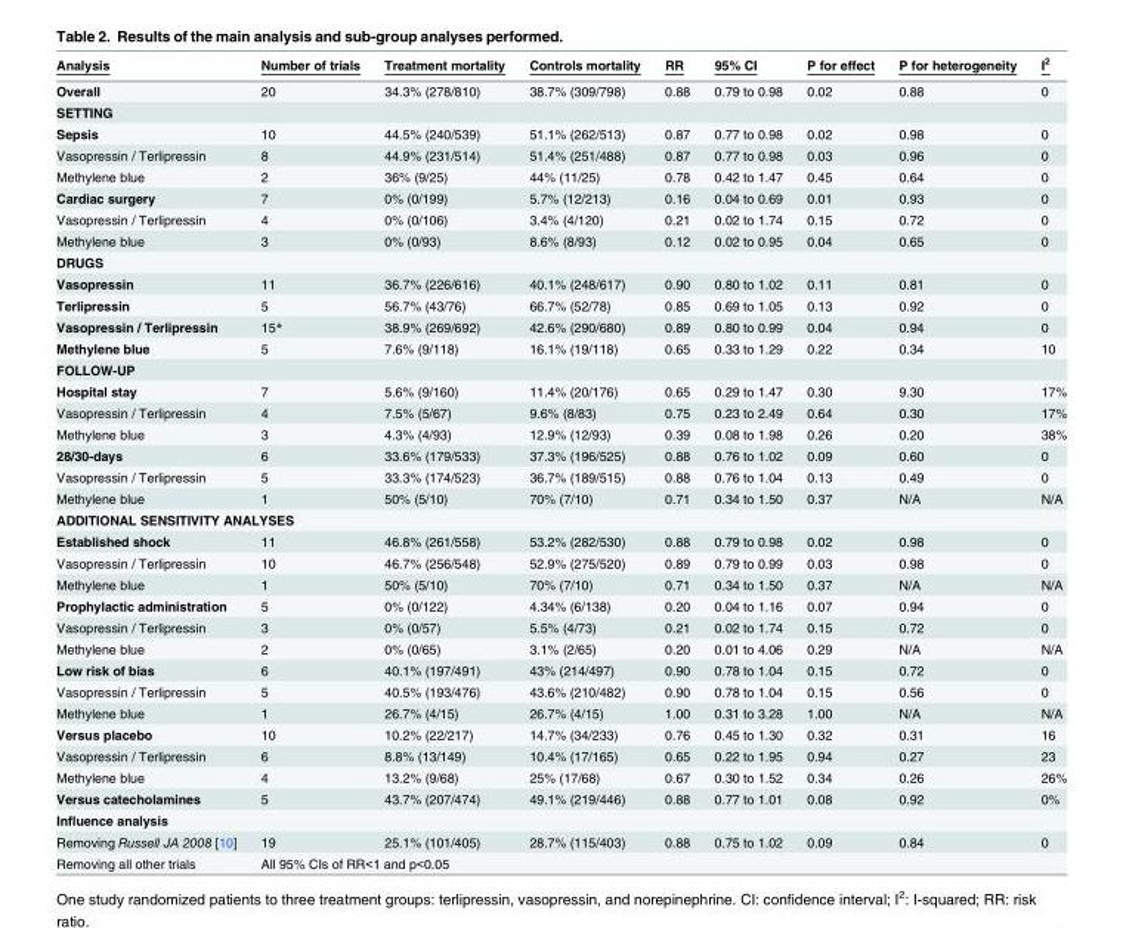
<table><thead><tr><td>Analysis</td><td>Number of trials</td><td>Treatment mortality</td><td>Controls mortality</td><td>RR</td><td>95% CI</td><td>P for effect</td><td>P for heterogeneity</td><td>I<sup>2</sup></td></tr></thead><tbody><tr><td>Overall</td><td>20</td><td>34.3% (278/810)</td><td>38.7% (309/798)</td><td>0.88</td><td>0.79 to 0.98</td><td>0.02</td><td>0.88</td><td>0</td></tr><tr><td colspan="9">SETTING</td></tr><tr><td>Sepsis</td><td>10</td><td>44.5% (240/539)</td><td>51.1% (262/513)</td><td>0.87</td><td>0.77 to 0.98</td><td>0.02</td><td>0.98</td><td>0</td></tr><tr><td>Vasopressin / Terlipressin</td><td>8</td><td>44.9% (231/514)</td><td>51.4% (251/488)</td><td>0.87</td><td>0.77 to 0.98</td><td>0.03</td><td>0.96</td><td>0</td></tr><tr><td>Methylene blue</td><td>2</td><td>36% (9/25)</td><td>44% (11/25)</td><td>0.78</td><td>0.42 to 1.47</td><td>0.45</td><td>0.64</td><td>0</td></tr><tr><td>Cardiac surgery</td><td>7</td><td>0% (0/199)</td><td>5.7% (12/213)</td><td>0.16</td><td>0.04 to 0.69</td><td>0.01</td><td>0.93</td><td>0</td></tr><tr><td>Vasopressin / Terlipressin</td><td>4</td><td>0% (0/106)</td><td>3.4% (4/120)</td><td>0.21</td><td>0.02 to 1.74</td><td>0.15</td><td>0.72</td><td>0</td></tr><tr><td>Methylene blue</td><td>3</td><td>0% (0/93)</td><td>8.6% (8/93)</td><td>0.12</td><td>0.02 to 0.95</td><td>0.04</td><td>0.65</td><td>0</td></tr><tr><td colspan="9">DRUGS</td></tr><tr><td>Vasopressin</td><td>11</td><td>36.7% (226/616)</td><td>40.1% (248/617)</td><td>0.90</td><td>0.80 to 1.02</td><td>0.11</td><td>0.81</td><td>0</td></tr><tr><td>Terlipressin</td><td>5</td><td>56.7% (43/76)</td><td>66.7% (52/78)</td><td>0.85</td><td>0.69 to 1.05</td><td>0.13</td><td>0.92</td><td>0</td></tr><tr><td>Vasopressin / Terlipressin</td><td>15*</td><td>38.9% (269/692)</td><td>42.6% (290/680)</td><td>0.89</td><td>0.80 to 0.99</td><td>0.04</td><td>0.94</td><td>0</td></tr><tr><td>Methylene blue</td><td>5</td><td>7.6% (9/118)</td><td>16.1% (19/118)</td><td>0.65</td><td>0.33 to 1.29</td><td>0.22</td><td>0.34</td><td>10</td></tr><tr><td colspan="9">FOLLOW-UP</td></tr><tr><td>Hospital stay</td><td>7</td><td>5.6% (9/160)</td><td>11.4% (20/176)</td><td>0.65</td><td>0.29 to 1.47</td><td>0.30</td><td>9.30</td><td>17%</td></tr><tr><td>Vasopressin / Terlipressin</td><td>4</td><td>7.5% (5/67)</td><td>9.6% (8/83)</td><td>0.75</td><td>0.23 to 2.49</td><td>0.64</td><td>0.30</td><td>17%</td></tr><tr><td>Methylene blue</td><td>3</td><td>4.3% (4/93)</td><td>12.9% (12/93)</td><td>0.39</td><td>0.08 to 1.98</td><td>0.26</td><td>0.20</td><td>38%</td></tr><tr><td>28/30-days</td><td>6</td><td>33.6% (179/533)</td><td>37.3% (196/525)</td><td>0.88</td><td>0.76 to 1.02</td><td>0.09</td><td>0.60</td><td>0</td></tr><tr><td>Vasopressin / Terlipressin</td><td>5</td><td>33.3% (174/523)</td><td>36.7% (189/515)</td><td>0.88</td><td>0.76 to 1.04</td><td>0.13</td><td>0.49</td><td>0</td></tr><tr><td>Methylene blue</td><td>1</td><td>50% (5/10)</td><td>70% (7/10)</td><td>0.71</td><td>0.34 to 1.50</td><td>0.37</td><td>N/A</td><td>N/A</td></tr><tr><td colspan="9">ADDITIONAL SENSITIVITY ANALYSES</td></tr><tr><td>Established shock</td><td>11</td><td>46.8% (261/558)</td><td>53.2% (282/530)</td><td>0.88</td><td>0.79 to 0.98</td><td>0.02</td><td>0.98</td><td>0</td></tr><tr><td>Vasopressin / Terlipressin</td><td>10</td><td>46.7% (256/548)</td><td>52.9% (275/520)</td><td>0.89</td><td>0.79 to 0.99</td><td>0.03</td><td>0.98</td><td>0</td></tr><tr><td>Methylene blue</td><td>1</td><td>50% (5/10)</td><td>70% (7/10)</td><td>0.71</td><td>0.34 to 1.50</td><td>0.37</td><td>N/A</td><td>N/A</td></tr><tr><td>Prophylactic administration</td><td>5</td><td>0% (0/122)</td><td>4.34% (6/138)</td><td>0.20</td><td>0.04 to 1.16</td><td>0.07</td><td>0.94</td><td>0</td></tr><tr><td>Vasopressin / Terlipressin</td><td>3</td><td>0% (0/57)</td><td>5.5% (4/73)</td><td>0.21</td><td>0.02 to 1.74</td><td>0.15</td><td>0.72</td><td>0</td></tr><tr><td>Methylene blue</td><td>2</td><td>0% (0/65)</td><td>3.1% (2/65)</td><td>0.20</td><td>0.01 to 4.06</td><td>0.29</td><td>N/A</td><td>N/A</td></tr><tr><td>Low risk of bias</td><td>6</td><td>40.1% (197/491)</td><td>43% (214/497)</td><td>0.90</td><td>0.78 to 1.04</td><td>0.15</td><td>0.72</td><td>0</td></tr><tr><td>Vasopressin / Terlipressin</td><td>5</td><td>40.5% (193/476)</td><td>43.6% (210/482)</td><td>0.90</td><td>0.78 to 1.04</td><td>0.15</td><td>0.56</td><td>0</td></tr><tr><td>Methylene blue</td><td>1</td><td>26.7% (4/15)</td><td>26.7% (4/15)</td><td>1.00</td><td>0.31 to 3.28</td><td>1.00</td><td>N/A</td><td>N/A</td></tr><tr><td>Versus placebo</td><td>10</td><td>10.2% (22/217)</td><td>14.7% (34/233)</td><td>0.76</td><td>0.45 to 1.30</td><td>0.32</td><td>0.31</td><td>16</td></tr><tr><td>Vasopressin / Terlipressin</td><td>6</td><td>8.8% (13/149)</td><td>10.4% (17/165)</td><td>0.65</td><td>0.22 to 1.95</td><td>0.94</td><td>0.27</td><td>23</td></tr><tr><td>Methylene blue</td><td>4</td><td>13.2% (9/68)</td><td>25% (17/68)</td><td>0.67</td><td>0.30 to 1.52</td><td>0.34</td><td>0.26</td><td>26%</td></tr><tr><td>Versus catecholamines</td><td>5</td><td>43.7% (207/474)</td><td>49.1% (219/446)</td><td>0.88</td><td>0.77 to 1.01</td><td>0.08</td><td>0.92</td><td>0%</td></tr><tr><td colspan="9">Influence analysis</td></tr><tr><td>Removing Russell JA 2008 [10]</td><td>19</td><td>25.1% (101/405)</td><td>28.7% (115/403)</td><td>0.88</td><td>0.75 to 1.02</td><td>0.09</td><td>0.84</td><td>0</td></tr><tr><td>Removing all other trials</td><td colspan="8">All 95% CIs of RR&lt;1 and p&lt;0.05</td></tr></tbody></table>